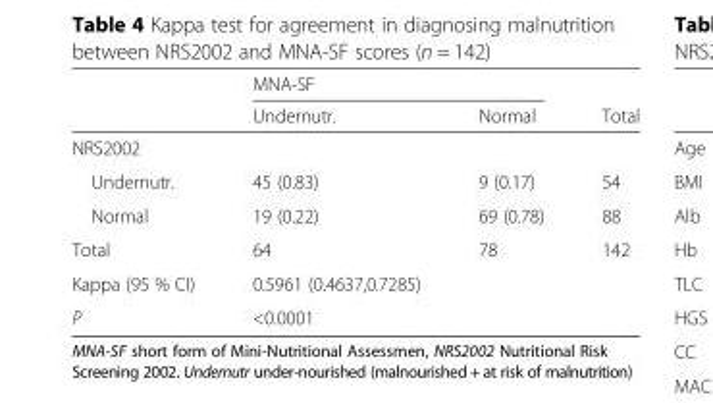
<table><thead><tr><td rowspan="2"></td><td colspan="2">MNA-SF</td><td rowspan="2">Total</td></tr><tr><td>Undernutr.</td><td>Normal</td></tr></thead><tbody><tr><td colspan="4">NRS2002</td></tr><tr><td>Undernutr.</td><td>45 (0.83)</td><td>9 (0.17)</td><td>54</td></tr><tr><td>Normal</td><td>19 (0.22)</td><td>69 (0.78)</td><td>88</td></tr><tr><td>Total</td><td>64</td><td>78</td><td>142</td></tr><tr><td>Kappa (95 % CI)</td><td>0.5961 (0.4637,0.7285)</td><td></td><td></td></tr><tr><td>P</td><td>&lt;0.0001</td><td></td><td></td></tr></tbody></table>